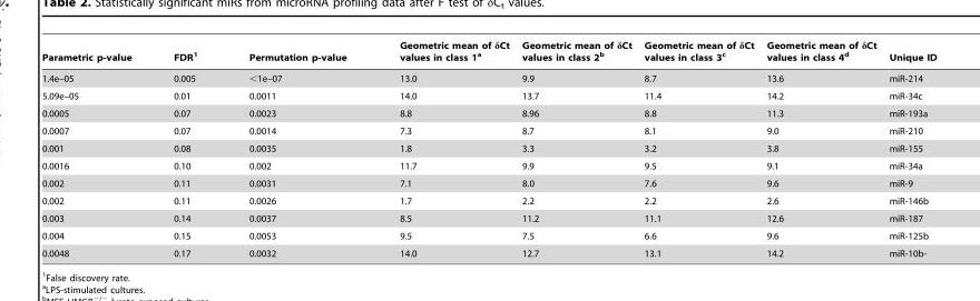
<table><thead><tr><td>Parametric p-value</td><td>FDR<sup>1</sup></td><td>Permutation p-value</td><td>Geometric mean of δCt values in class 1<sup>a</sup></td><td>Geometric mean of δCt values in class 2<sup>b</sup></td><td>Geometric mean of δCt values in class 3<sup>c</sup></td><td>Geometric mean of δCt values in class 4<sup>d</sup></td><td>Unique ID</td></tr></thead><tbody><tr><td>1.4e–05</td><td>0.005</td><td>&lt;1e–07</td><td>13.0</td><td>9.9</td><td>8.7</td><td>13.6</td><td>miR-214</td></tr><tr><td>5.09e–05</td><td>0.01</td><td>0.0011</td><td>14.0</td><td>13.7</td><td>11.4</td><td>14.2</td><td>miR-34c</td></tr><tr><td>0.0005</td><td>0.07</td><td>0.0023</td><td>8.8</td><td>8.96</td><td>8.8</td><td>11.3</td><td>miR-193a</td></tr><tr><td>0.0007</td><td>0.07</td><td>0.0014</td><td>7.3</td><td>8.7</td><td>8.1</td><td>9.0</td><td>miR-210</td></tr><tr><td>0.001</td><td>0.08</td><td>0.0035</td><td>1.8</td><td>3.3</td><td>3.2</td><td>3.8</td><td>miR-155</td></tr><tr><td>0.0016</td><td>0.10</td><td>0.002</td><td>11.7</td><td>9.9</td><td>9.5</td><td>9.1</td><td>miR-34a</td></tr><tr><td>0.002</td><td>0.11</td><td>0.0031</td><td>7.1</td><td>8.0</td><td>7.6</td><td>9.6</td><td>miR-9</td></tr><tr><td>0.002</td><td>0.11</td><td>0.0026</td><td>1.7</td><td>2.2</td><td>2.2</td><td>2.6</td><td>miR-146b</td></tr><tr><td>0.003</td><td>0.14</td><td>0.0037</td><td>8.5</td><td>11.2</td><td>11.1</td><td>12.6</td><td>miR-187</td></tr><tr><td>0.004</td><td>0.15</td><td>0.0053</td><td>9.5</td><td>7.5</td><td>6.6</td><td>9.6</td><td>miR-125b</td></tr><tr><td>0.0048</td><td>0.17</td><td>0.0032</td><td>14.0</td><td>12.7</td><td>13.1</td><td>14.2</td><td>miR-10b-</td></tr></tbody></table>